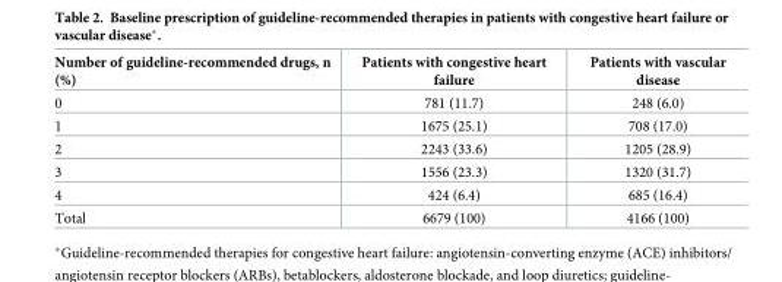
<table><thead><tr><td>Number of guideline-recommended drugs, n (%)</td><td>Patients with congestive heart failure</td><td>Patients with vascular disease</td></tr></thead><tbody><tr><td>0</td><td>781 (11.7)</td><td>248 (6.0)</td></tr><tr><td>1</td><td>1675 (25.1)</td><td>708 (17.0)</td></tr><tr><td>2</td><td>2243 (33.6)</td><td>1205 (28.9)</td></tr><tr><td>3</td><td>1556 (23.3)</td><td>1320 (31.7)</td></tr><tr><td>4</td><td>424 (6.4)</td><td>685 (16.4)</td></tr><tr><td>Total</td><td>6679 (100)</td><td>4166 (100)</td></tr></tbody></table>